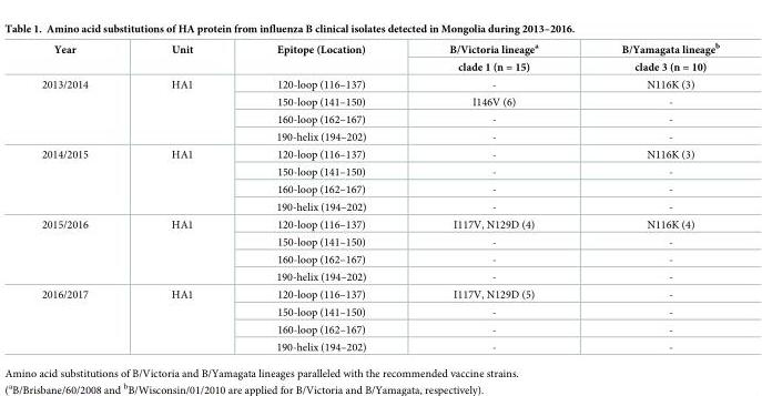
<table><thead><tr><td rowspan="2">Year</td><td rowspan="2">Unit</td><td rowspan="2">Epitope (Location)</td><td rowspan="2">B/Victoria lineage<sup>a</sup> clade 1 (n = 15)</td><td rowspan="2">B/Yamagata lineage<sup>b</sup> clade 3 (n = 10)</td></tr><tr></tr></thead><tbody><tr><td rowspan="4">2013/2014</td><td rowspan="4">HA1</td><td>120-loop (116–137)</td><td>-</td><td>N116K (3)</td></tr><tr><td>150-loop (141–150)</td><td>I146V (6)</td><td>-</td></tr><tr><td>160-loop (162–167)</td><td>-</td><td>-</td></tr><tr><td>190-helix (194–202)</td><td>-</td><td>-</td></tr><tr><td rowspan="4">2014/2015</td><td rowspan="4">HA1</td><td>120-loop (116–137)</td><td>-</td><td>N116K (3)</td></tr><tr><td>150-loop (141–150)</td><td>-</td><td>-</td></tr><tr><td>160-loop (162–167)</td><td>-</td><td>-</td></tr><tr><td>190-helix (194–202)</td><td>-</td><td>-</td></tr><tr><td rowspan="4">2015/2016</td><td rowspan="4">HA1</td><td>120-loop (116–137)</td><td>I117V, N129D (4)</td><td>N116K (4)</td></tr><tr><td>150-loop (141–150)</td><td>-</td><td>-</td></tr><tr><td>160-loop (162–167)</td><td>-</td><td>-</td></tr><tr><td>190-helix (194–202)</td><td>-</td><td>-</td></tr><tr><td rowspan="4">2016/2017</td><td rowspan="4">HA1</td><td>120-loop (116–137)</td><td>I117V, N129D (5)</td><td>-</td></tr><tr><td>150-loop (141–150)</td><td>-</td><td>-</td></tr><tr><td>160-loop (162–167)</td><td>-</td><td>-</td></tr><tr><td>190-helix (194–202)</td><td>-</td><td>-</td></tr></tbody></table>